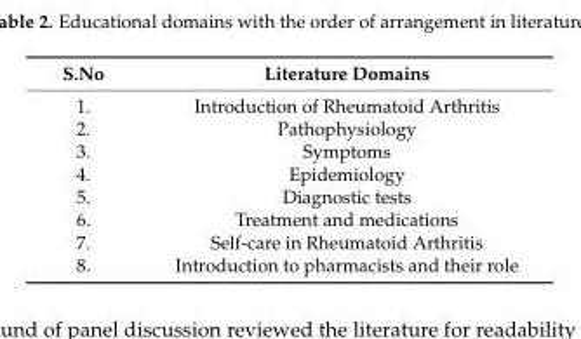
<table><thead><tr><td>S.No</td><td>Literature Domains</td></tr></thead><tbody><tr><td>1.</td><td>Introduction of Rheumatoid Arthritis</td></tr><tr><td>2.</td><td>Pathophysiology</td></tr><tr><td>3.</td><td>Symptoms</td></tr><tr><td>4.</td><td>Epidemiology</td></tr><tr><td>5.</td><td>Diagnostic tests</td></tr><tr><td>6.</td><td>Treatment and medications</td></tr><tr><td>7.</td><td>Self-care in Rheumatoid Arthritis</td></tr><tr><td>8.</td><td>Introduction to pharmacists and their role</td></tr></tbody></table>